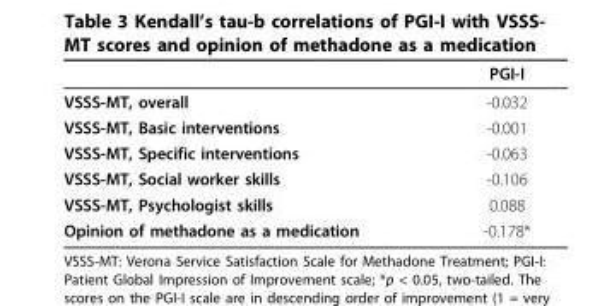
<table><thead><tr><td></td><td>PGI-I</td></tr></thead><tbody><tr><td>VSSS-MT, overall</td><td>-0.032</td></tr><tr><td>VSSS-MT, Basic interventions</td><td>-0.001</td></tr><tr><td>VSSS-MT, Specific interventions</td><td>-0.063</td></tr><tr><td>VSSS-MT, Social worker skills</td><td>-0.106</td></tr><tr><td>VSSS-MT, Psychologist skills</td><td>0.088</td></tr><tr><td>Opinion of methadone as a medication</td><td>-0.178*</td></tr></tbody></table>